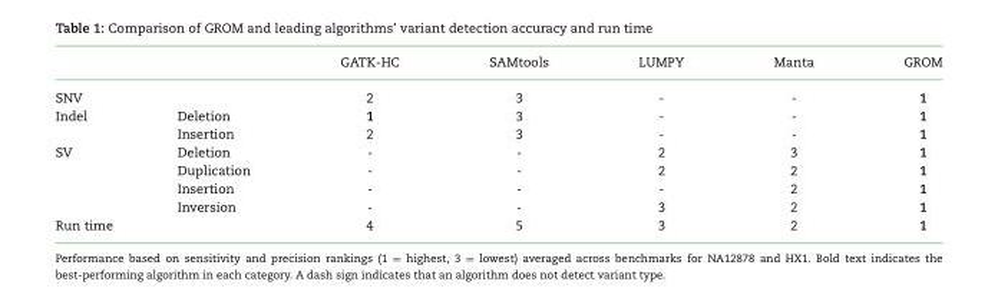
<table><thead><tr><td></td><td></td><td>GATK-HC</td><td>SAMtools</td><td>LUMPY</td><td>Manta</td><td>GROM</td></tr></thead><tbody><tr><td colspan="2">SNV</td><td>2</td><td>3</td><td>-</td><td>-</td><td>1</td></tr><tr><td rowspan="2">Indel</td><td>Deletion</td><td>1</td><td>3</td><td>-</td><td>-</td><td>1</td></tr><tr><td>Insertion</td><td>2</td><td>3</td><td>-</td><td>-</td><td>1</td></tr><tr><td rowspan="4">SV</td><td>Deletion</td><td>-</td><td>-</td><td>2</td><td>3</td><td>1</td></tr><tr><td>Duplication</td><td>-</td><td>-</td><td>2</td><td>2</td><td>1</td></tr><tr><td>Insertion</td><td>-</td><td>-</td><td>-</td><td>2</td><td>1</td></tr><tr><td>Inversion</td><td>-</td><td>-</td><td>3</td><td>2</td><td>1</td></tr><tr><td colspan="2">Run time</td><td>4</td><td>5</td><td>3</td><td>2</td><td>1</td></tr></tbody></table>